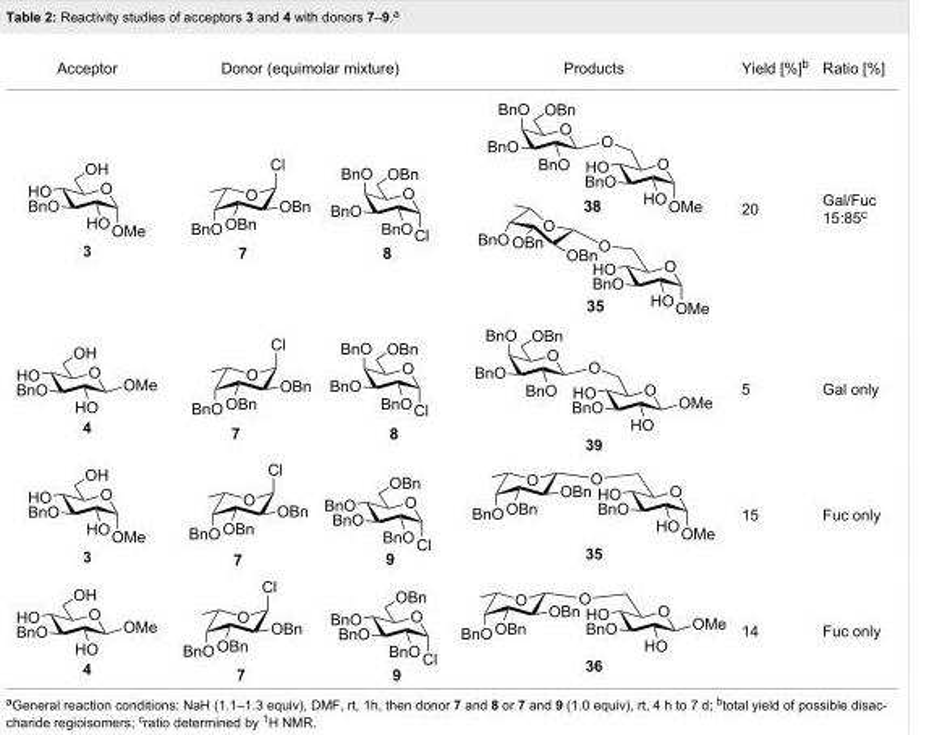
<table><tbody><tr><td>Acceptor</td><td>Donor (equimolar mixture)</td><td>Products</td><td>Yield [%]<sup>b</sup></td><td>Ratio [%]</td></tr><tr><td>3</td><td></td><td></td><td>20</td><td>Gal/Fuc 15:85<sup>c</sup></td></tr><tr><td>4</td><td></td><td>39</td><td>5</td><td>Gal only</td></tr><tr><td>3</td><td></td><td>35</td><td>15</td><td>Fuc only</td></tr><tr><td>4</td><td></td><td>36</td><td>14</td><td>Fuc only</td></tr></tbody></table>